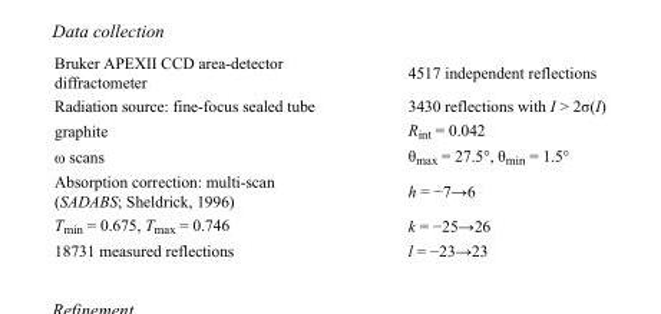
<table><tbody><tr><td>Bruker APEXII CCD area-detector diffractometer</td><td>4517 independent reflections</td></tr><tr><td>Radiation source: fine-focus sealed tube</td><td>3430 reflections with I &gt; 2σ(I)</td></tr><tr><td>graphite</td><td>R<sub>int</sub> = 0.042</td></tr><tr><td>ω scans</td><td>θ<sub>max</sub> = 27.5°, θ<sub>min</sub> = 1.5°</td></tr><tr><td>Absorption correction: multi-scan (SADABS; Sheldrick, 1996)</td><td>h = −7→6</td></tr><tr><td>T<sub>min</sub> = 0.675, T<sub>max</sub> = 0.746</td><td>k = −25→26</td></tr><tr><td>18731 measured reflections</td><td>l = −23→23</td></tr></tbody></table>